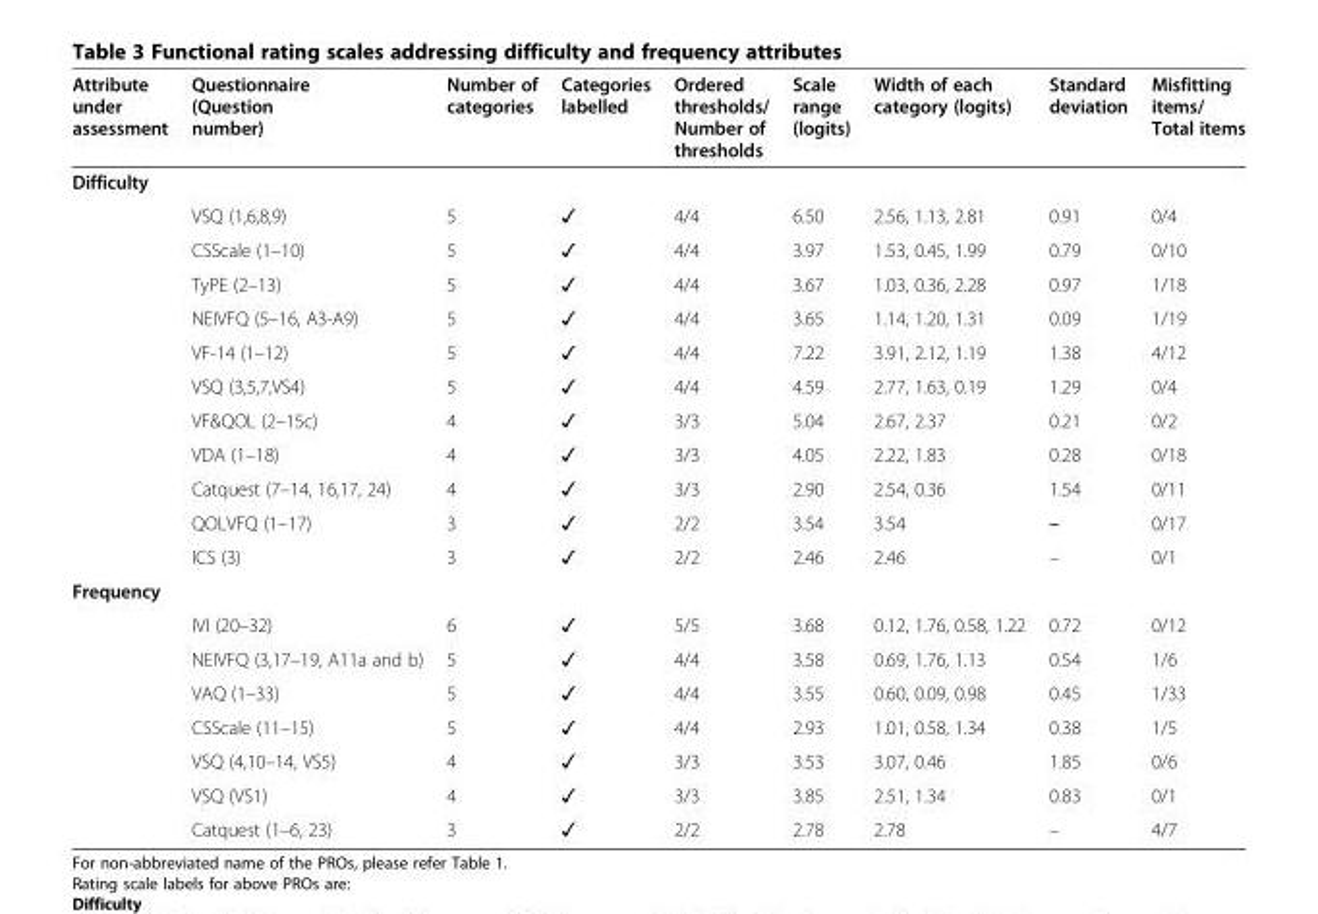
<table><thead><tr><td>Attribute under assessment</td><td>Questionnaire (Question number)</td><td>Number of categories</td><td>Categories labelled</td><td>Ordered thresholds/ Number of thresholds</td><td>Scale range (logits)</td><td>Width of each category (logits)</td><td>Standard deviation</td><td>Misfitting items/ Total items</td></tr></thead><tbody><tr><td colspan="9">Difficulty</td></tr><tr><td></td><td>VSQ (1,6,8,9)</td><td>5</td><td>✓</td><td>4/4</td><td>6.50</td><td>2.56, 1.13, 2.81</td><td>0.91</td><td>0/4</td></tr><tr><td></td><td>CSScale (1–10)</td><td>5</td><td>✓</td><td>4/4</td><td>3.97</td><td>1.53, 0.45, 1.99</td><td>0.79</td><td>0/10</td></tr><tr><td></td><td>TyPE (2–13)</td><td>5</td><td>✓</td><td>4/4</td><td>3.67</td><td>1.03, 0.36, 2.28</td><td>0.97</td><td>1/18</td></tr><tr><td></td><td>NEIVFQ (5–16, A3-A9)</td><td>5</td><td>✓</td><td>4/4</td><td>3.65</td><td>1.14, 1.20, 1.31</td><td>0.09</td><td>1/19</td></tr><tr><td></td><td>VF-14 (1–12)</td><td>5</td><td>✓</td><td>4/4</td><td>7.22</td><td>3.91, 2.12, 1.19</td><td>1.38</td><td>4/12</td></tr><tr><td></td><td>VSQ (3,5,7,VS4)</td><td>5</td><td>✓</td><td>4/4</td><td>4.59</td><td>2.77, 1.63, 0.19</td><td>1.29</td><td>0/4</td></tr><tr><td></td><td>VF&amp;QOL (2–15c)</td><td>4</td><td>✓</td><td>3/3</td><td>5.04</td><td>2.67, 2.37</td><td>0.21</td><td>0/2</td></tr><tr><td></td><td>VDA (1–18)</td><td>4</td><td>✓</td><td>3/3</td><td>4.05</td><td>2.22, 1.83</td><td>0.28</td><td>0/18</td></tr><tr><td></td><td>Catquest (7–14, 16,17, 24)</td><td>4</td><td>✓</td><td>3/3</td><td>2.90</td><td>2.54, 0.36</td><td>1.54</td><td>0/11</td></tr><tr><td></td><td>QOLVFQ (1–17)</td><td>3</td><td>✓</td><td>2/2</td><td>3.54</td><td>3.54</td><td>–</td><td>0/17</td></tr><tr><td></td><td>ICS (3)</td><td>3</td><td>✓</td><td>2/2</td><td>2.46</td><td>2.46</td><td>–</td><td>0/1</td></tr><tr><td colspan="9">Frequency</td></tr><tr><td></td><td>IVI (20–32)</td><td>6</td><td>✓</td><td>5/5</td><td>3.68</td><td>0.12, 1.76, 0.58, 1.22</td><td>0.72</td><td>0/12</td></tr><tr><td></td><td>NEIVFQ (3,17–19, A11a and b)</td><td>5</td><td>✓</td><td>4/4</td><td>3.58</td><td>0.69, 1.76, 1.13</td><td>0.54</td><td>1/6</td></tr><tr><td></td><td>VAQ (1–33)</td><td>5</td><td>✓</td><td>4/4</td><td>3.55</td><td>0.60, 0.09, 0.98</td><td>0.45</td><td>1/33</td></tr><tr><td></td><td>CSScale (11–15)</td><td>5</td><td>✓</td><td>4/4</td><td>2.93</td><td>1.01, 0.58, 1.34</td><td>0.38</td><td>1/5</td></tr><tr><td></td><td>VSQ (4,10–14, VS5)</td><td>4</td><td>✓</td><td>3/3</td><td>3.53</td><td>3.07, 0.46</td><td>1.85</td><td>0/6</td></tr><tr><td></td><td>VSQ (VS1)</td><td>4</td><td>✓</td><td>3/3</td><td>3.85</td><td>2.51, 1.34</td><td>0.83</td><td>0/1</td></tr><tr><td></td><td>Catquest (1–6, 23)</td><td>3</td><td>✓</td><td>2/2</td><td>2.78</td><td>2.78</td><td>–</td><td>4/7</td></tr></tbody></table>